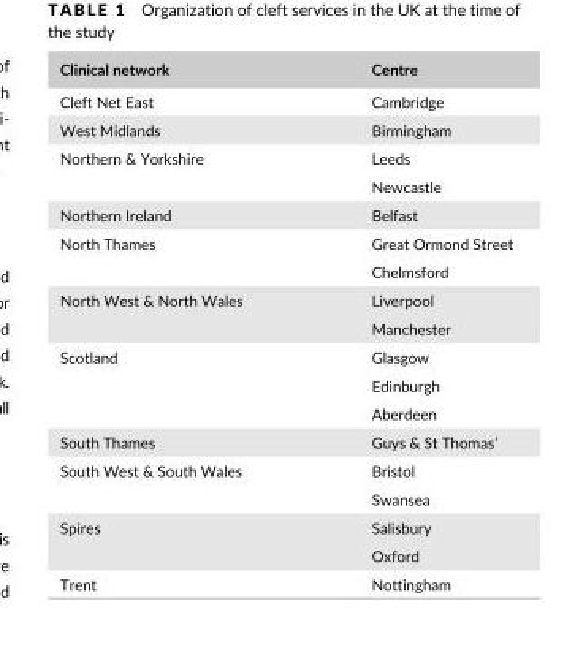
<table><thead><tr><td>Clinical network</td><td>Centre</td></tr></thead><tbody><tr><td>Cleft Net East</td><td>Cambridge</td></tr><tr><td>West Midlands</td><td>Birmingham</td></tr><tr><td rowspan="2">Northern &amp; Yorkshire</td><td>Leeds</td></tr><tr><td>Newcastle</td></tr><tr><td>Northern Ireland</td><td>Belfast</td></tr><tr><td rowspan="2">North Thames</td><td>Great Ormond Street</td></tr><tr><td>Chelmsford</td></tr><tr><td rowspan="2">North West &amp; North Wales</td><td>Liverpool</td></tr><tr><td>Manchester</td></tr><tr><td rowspan="3">Scotland</td><td>Glasgow</td></tr><tr><td>Edinburgh</td></tr><tr><td>Aberdeen</td></tr><tr><td>South Thames</td><td>Guys &amp; St Thomas’</td></tr><tr><td rowspan="2">South West &amp; South Wales</td><td>Bristol</td></tr><tr><td>Swansea</td></tr><tr><td rowspan="2">Spires</td><td>Salisbury</td></tr><tr><td>Oxford</td></tr><tr><td>Trent</td><td>Nottingham</td></tr></tbody></table>